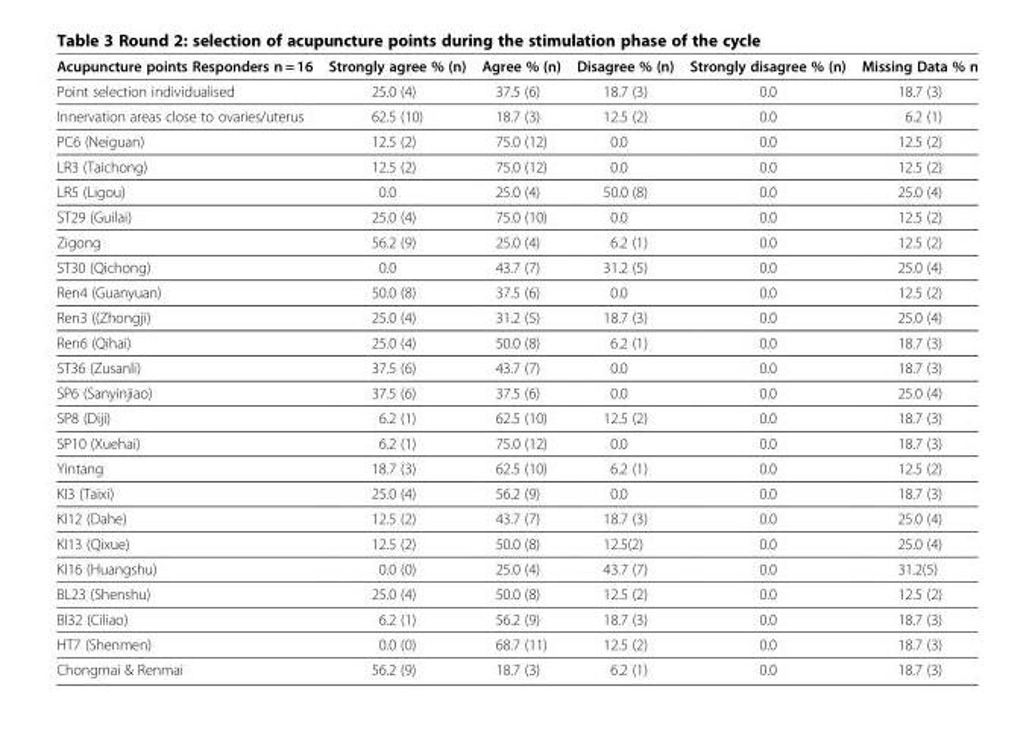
<table><thead><tr><td>Acupuncture points Responders n = 16</td><td>Strongly agree % (n)</td><td>Agree % (n)</td><td>Disagree % (n)</td><td>Strongly disagree % (n)</td><td>Missing Data % n</td></tr></thead><tbody><tr><td>Point selection individualised</td><td>25.0 (4)</td><td>37.5 (6)</td><td>18.7 (3)</td><td>0.0</td><td>18.7 (3)</td></tr><tr><td>Innervation areas close to ovaries/uterus</td><td>62.5 (10)</td><td>18.7 (3)</td><td>12.5 (2)</td><td>0.0</td><td>6.2 (1)</td></tr><tr><td>PC6 (Neiguan)</td><td>12.5 (2)</td><td>75.0 (12)</td><td>0.0</td><td>0.0</td><td>12.5 (2)</td></tr><tr><td>LR3 (Taichong)</td><td>12.5 (2)</td><td>75.0 (12)</td><td>0.0</td><td>0.0</td><td>12.5 (2)</td></tr><tr><td>LR5 (Ligou)</td><td>0.0</td><td>25.0 (4)</td><td>50.0 (8)</td><td>0.0</td><td>25.0 (4)</td></tr><tr><td>ST29 (Guilai)</td><td>25.0 (4)</td><td>75.0 (10)</td><td>0.0</td><td>0.0</td><td>12.5 (2)</td></tr><tr><td>Zigong</td><td>56.2 (9)</td><td>25.0 (4)</td><td>6.2 (1)</td><td>0.0</td><td>12.5 (2)</td></tr><tr><td>ST30 (Qichong)</td><td>0.0</td><td>43.7 (7)</td><td>31.2 (5)</td><td>0.0</td><td>25.0 (4)</td></tr><tr><td>Ren4 (Guanyuan)</td><td>50.0 (8)</td><td>37.5 (6)</td><td>0.0</td><td>0.0</td><td>12.5 (2)</td></tr><tr><td>Ren3 ((Zhongji)</td><td>25.0 (4)</td><td>31.2 (5)</td><td>18.7 (3)</td><td>0.0</td><td>25.0 (4)</td></tr><tr><td>Ren6 (Qihai)</td><td>25.0 (4)</td><td>50.0 (8)</td><td>6.2 (1)</td><td>0.0</td><td>18.7 (3)</td></tr><tr><td>ST36 (Zusanli)</td><td>37.5 (6)</td><td>43.7 (7)</td><td>0.0</td><td>0.0</td><td>18.7 (3)</td></tr><tr><td>SP6 (Sanyinjiao)</td><td>37.5 (6)</td><td>37.5 (6)</td><td>0.0</td><td>0.0</td><td>25.0 (4)</td></tr><tr><td>SP8 (Diji)</td><td>6.2 (1)</td><td>62.5 (10)</td><td>12.5 (2)</td><td>0.0</td><td>18.7 (3)</td></tr><tr><td>SP10 (Xuehai)</td><td>6.2 (1)</td><td>75.0 (12)</td><td>0.0</td><td>0.0</td><td>18.7 (3)</td></tr><tr><td>Yintang</td><td>18.7 (3)</td><td>62.5 (10)</td><td>6.2 (1)</td><td>0.0</td><td>12.5 (2)</td></tr><tr><td>KI3 (Taixi)</td><td>25.0 (4)</td><td>56.2 (9)</td><td>0.0</td><td>0.0</td><td>18.7 (3)</td></tr><tr><td>KI12 (Dahe)</td><td>12.5 (2)</td><td>43.7 (7)</td><td>18.7 (3)</td><td>0.0</td><td>25.0 (4)</td></tr><tr><td>KI13 (Qixue)</td><td>12.5 (2)</td><td>50.0 (8)</td><td>12.5(2)</td><td>0.0</td><td>25.0 (4)</td></tr><tr><td>KI16 (Huangshu)</td><td>0.0 (0)</td><td>25.0 (4)</td><td>43.7 (7)</td><td>0.0</td><td>31.2(5)</td></tr><tr><td>BL23 (Shenshu)</td><td>25.0 (4)</td><td>50.0 (8)</td><td>12.5 (2)</td><td>0.0</td><td>12.5 (2)</td></tr><tr><td>Bl32 (Ciliao)</td><td>6.2 (1)</td><td>56.2 (9)</td><td>18.7 (3)</td><td>0.0</td><td>18.7 (3)</td></tr><tr><td>HT7 (Shenmen)</td><td>0.0 (0)</td><td>68.7 (11)</td><td>12.5 (2)</td><td>0.0</td><td>18.7 (3)</td></tr><tr><td>Chongmai &amp; Renmai</td><td>56.2 (9)</td><td>18.7 (3)</td><td>6.2 (1)</td><td>0.0</td><td>18.7 (3)</td></tr></tbody></table>